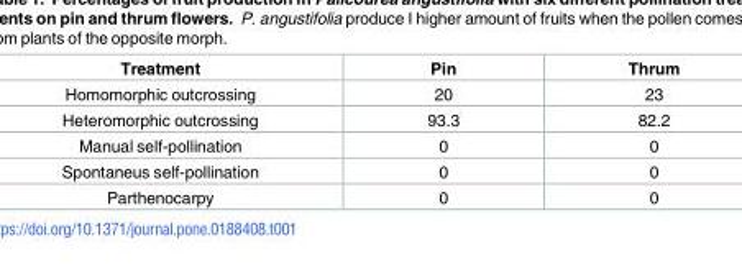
<table><thead><tr><td>Treatment</td><td>Pin</td><td>Thrum</td></tr></thead><tbody><tr><td>Homomorphic outcrossing</td><td>20</td><td>23</td></tr><tr><td>Heteromorphic outcrossing</td><td>93.3</td><td>82.2</td></tr><tr><td>Manual self-pollination</td><td>0</td><td>0</td></tr><tr><td>Spontaneus self-pollination</td><td>0</td><td>0</td></tr><tr><td>Parthenocarpy</td><td>0</td><td>0</td></tr></tbody></table>